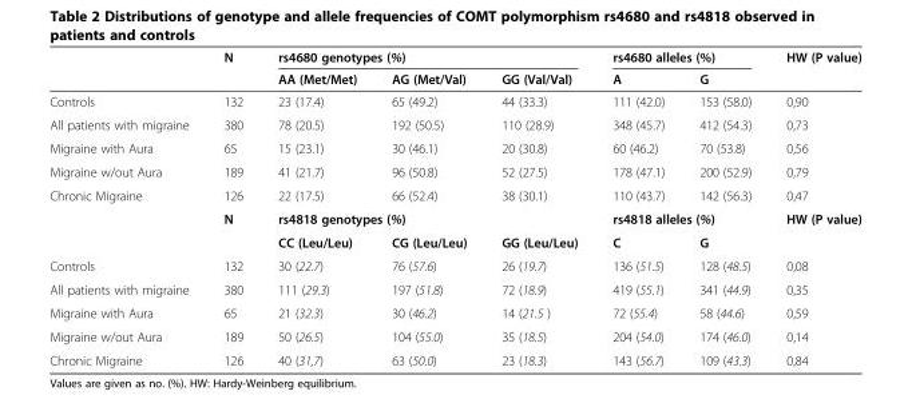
<table><thead><tr><td rowspan="2"></td><td rowspan="2">N</td><td colspan="3">rs4680 genotypes (%)</td><td colspan="2">rs4680 alleles (%)</td><td rowspan="2">HW (P value)</td></tr><tr><td>AA (Met/Met)</td><td>AG (Met/Val)</td><td>GG (Val/Val)</td><td>A</td><td>G</td></tr></thead><tbody><tr><td>Controls</td><td>132</td><td>23 (17.4)</td><td>65 (49.2)</td><td>44 (33.3)</td><td>111 (42.0)</td><td>153 (58.0)</td><td>0,90</td></tr><tr><td>All patients with migraine</td><td>380</td><td>78 (20.5)</td><td>192 (50.5)</td><td>110 (28.9)</td><td>348 (45.7)</td><td>412 (54.3)</td><td>0,73</td></tr><tr><td>Migraine with Aura</td><td>65</td><td>15 (23.1)</td><td>30 (46.1)</td><td>20 (30.8)</td><td>60 (46.2)</td><td>70 (53.8)</td><td>0,56</td></tr><tr><td>Migraine w/out Aura</td><td>189</td><td>41 (21.7)</td><td>96 (50.8)</td><td>52 (27.5)</td><td>178 (47.1)</td><td>200 (52.9)</td><td>0,79</td></tr><tr><td rowspan="3">Chronic Migraine</td><td>126</td><td>22 (17.5)</td><td>66 (52.4)</td><td>38 (30.1)</td><td>110 (43.7)</td><td>142 (56.3)</td><td>0,47</td></tr><tr><td>N</td><td colspan="3">rs4818 genotypes (%)</td><td colspan="2">rs4818 alleles (%)</td><td>HW (P value)</td></tr><tr><td></td><td>CC (Leu/Leu)</td><td>CG (Leu/Leu)</td><td>GG (Leu/Leu)</td><td>C</td><td>G</td><td></td></tr><tr><td>Controls</td><td>132</td><td>30 (22.7)</td><td>76 (57.6)</td><td>26 (19.7)</td><td>136 (51.5)</td><td>128 (48.5)</td><td>0,08</td></tr><tr><td>All patients with migraine</td><td>380</td><td>111 (29.3)</td><td>197 (51.8)</td><td>72 (18.9)</td><td>419 (55.1)</td><td>341 (44.9)</td><td>0,35</td></tr><tr><td>Migraine with Aura</td><td>65</td><td>21 (32.3)</td><td>30 (46.2)</td><td>14 (21.5 )</td><td>72 (55.4)</td><td>58 (44.6)</td><td>0,59</td></tr><tr><td>Migraine w/out Aura</td><td>189</td><td>50 (26.5)</td><td>104 (55.0)</td><td>35 (18.5)</td><td>204 (54.0)</td><td>174 (46.0)</td><td>0,14</td></tr><tr><td>Chronic Migraine</td><td>126</td><td>40 (31,7)</td><td>63 (50.0)</td><td>23 (18.3)</td><td>143 (56.7)</td><td>109 (43.3)</td><td>0,84</td></tr></tbody></table>